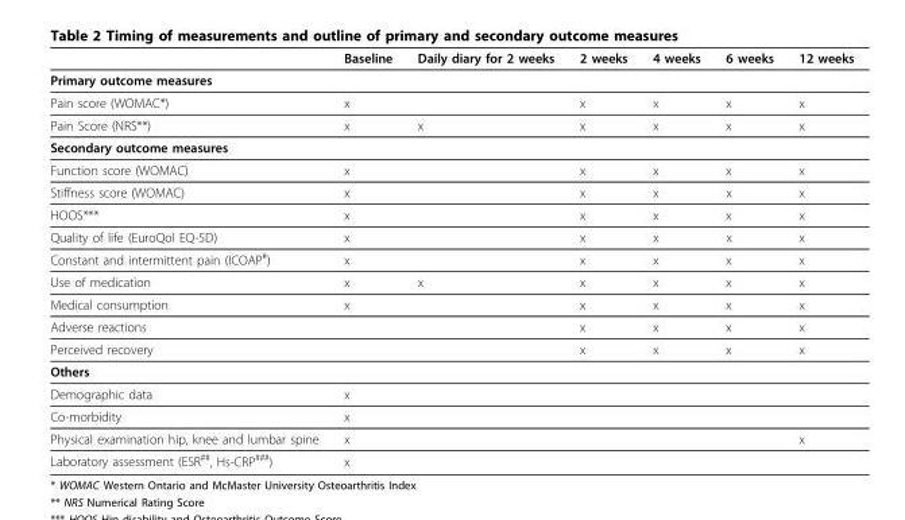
<table><thead><tr><td></td><td>Baseline</td><td>Daily diary for 2 weeks</td><td>2 weeks</td><td>4 weeks</td><td>6 weeks</td><td>12 weeks</td></tr></thead><tbody><tr><td colspan="7">Primary outcome measures</td></tr><tr><td>Pain score (WOMAC*)</td><td>x</td><td></td><td>x</td><td>x</td><td>x</td><td>x</td></tr><tr><td>Pain Score (NRS**)</td><td>x</td><td>x</td><td>x</td><td>x</td><td>x</td><td>x</td></tr><tr><td colspan="7">Secondary outcome measures</td></tr><tr><td>Function score (WOMAC)</td><td>x</td><td></td><td>x</td><td>x</td><td>x</td><td>x</td></tr><tr><td>Stiffness score (WOMAC)</td><td>x</td><td></td><td>x</td><td>x</td><td>x</td><td>x</td></tr><tr><td>HOOS***</td><td>x</td><td></td><td>x</td><td>x</td><td>x</td><td>x</td></tr><tr><td>Quality of life (EuroQol EQ-5D)</td><td>x</td><td></td><td>x</td><td>x</td><td>x</td><td>x</td></tr><tr><td>Constant and intermittent pain (ICOAP<sup>#</sup>)</td><td>x</td><td></td><td>x</td><td>x</td><td>x</td><td>x</td></tr><tr><td>Use of medication</td><td>x</td><td>x</td><td>x</td><td>x</td><td>x</td><td>x</td></tr><tr><td>Medical consumption</td><td>x</td><td></td><td>x</td><td>x</td><td>x</td><td>x</td></tr><tr><td>Adverse reactions</td><td></td><td></td><td>x</td><td>x</td><td>x</td><td>x</td></tr><tr><td>Perceived recovery</td><td></td><td></td><td>x</td><td>x</td><td>x</td><td>x</td></tr><tr><td colspan="7">Others</td></tr><tr><td>Demographic data</td><td>x</td><td></td><td></td><td></td><td></td><td></td></tr><tr><td>Co-morbidity</td><td>x</td><td></td><td></td><td></td><td></td><td></td></tr><tr><td>Physical examination hip, knee and lumbar spine</td><td>x</td><td></td><td></td><td></td><td></td><td>x</td></tr><tr><td>Laboratory assessment (ESR<sup>##</sup>, Hs-CRP<sup>###</sup>)</td><td>x</td><td></td><td></td><td></td><td></td><td></td></tr></tbody></table>